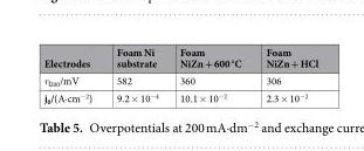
<table><thead><tr><td>Electrodes</td><td>Foam Ni substrate</td><td>Foam NiZn + 600 °C</td><td>Foam NiZn + HCl</td></tr></thead><tbody><tr><td>η<sub>200</sub>/mV</td><td>582</td><td>360</td><td>306</td></tr><tr><td>j<sub>0</sub>/(A·cm<sup>−2</sup>)</td><td>9.2 × 10<sup>−4</sup></td><td>10.1 × 10<sup>−2</sup></td><td>2.3 × 10<sup>−2</sup></td></tr></tbody></table>